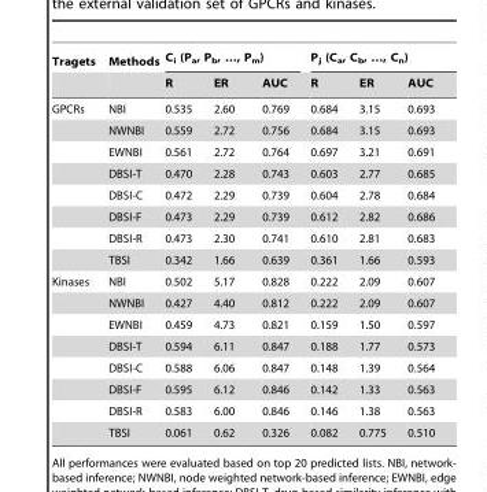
<table><thead><tr><td rowspan="2">Tragets</td><td rowspan="2">Methods</td><td colspan="3">C<sub>i</sub> (P<sub>a</sub>, P<sub>b</sub>, …, P<sub>m</sub>)</td><td colspan="3">P<sub>j</sub> (C<sub>a</sub>, C<sub>b</sub>, …, C<sub>n</sub>)</td></tr><tr><td>R</td><td>ER</td><td>AUC</td><td>R</td><td>ER</td><td>AUC</td></tr></thead><tbody><tr><td rowspan="8">GPCRs</td><td>NBI</td><td>0.535</td><td>2.60</td><td>0.769</td><td>0.684</td><td>3.15</td><td>0.693</td></tr><tr><td>NWNBI</td><td>0.559</td><td>2.72</td><td>0.756</td><td>0.684</td><td>3.15</td><td>0.693</td></tr><tr><td>EWNBI</td><td>0.561</td><td>2.72</td><td>0.764</td><td>0.697</td><td>3.21</td><td>0.691</td></tr><tr><td>DBSI-T</td><td>0.470</td><td>2.28</td><td>0.743</td><td>0.603</td><td>2.77</td><td>0.685</td></tr><tr><td>DBSI-C</td><td>0.472</td><td>2.29</td><td>0.739</td><td>0.604</td><td>2.78</td><td>0.684</td></tr><tr><td>DBSI-F</td><td>0.473</td><td>2.29</td><td>0.739</td><td>0.612</td><td>2.82</td><td>0.686</td></tr><tr><td>DBSI-R</td><td>0.473</td><td>2.30</td><td>0.741</td><td>0.610</td><td>2.81</td><td>0.683</td></tr><tr><td>TBSI</td><td>0.342</td><td>1.66</td><td>0.639</td><td>0.361</td><td>1.66</td><td>0.593</td></tr><tr><td rowspan="8">Kinases</td><td>NBI</td><td>0.502</td><td>5.17</td><td>0.828</td><td>0.222</td><td>2.09</td><td>0.607</td></tr><tr><td>NWNBI</td><td>0.427</td><td>4.40</td><td>0.812</td><td>0.222</td><td>2.09</td><td>0.607</td></tr><tr><td>EWNBI</td><td>0.459</td><td>4.73</td><td>0.821</td><td>0.159</td><td>1.50</td><td>0.597</td></tr><tr><td>DBSI-T</td><td>0.594</td><td>6.11</td><td>0.847</td><td>0.188</td><td>1.77</td><td>0.573</td></tr><tr><td>DBSI-C</td><td>0.588</td><td>6.06</td><td>0.847</td><td>0.148</td><td>1.39</td><td>0.564</td></tr><tr><td>DBSI-F</td><td>0.595</td><td>6.12</td><td>0.846</td><td>0.142</td><td>1.33</td><td>0.563</td></tr><tr><td>DBSI-R</td><td>0.583</td><td>6.00</td><td>0.846</td><td>0.146</td><td>1.38</td><td>0.563</td></tr><tr><td>TBSI</td><td>0.061</td><td>0.62</td><td>0.326</td><td>0.082</td><td>0.775</td><td>0.510</td></tr></tbody></table>